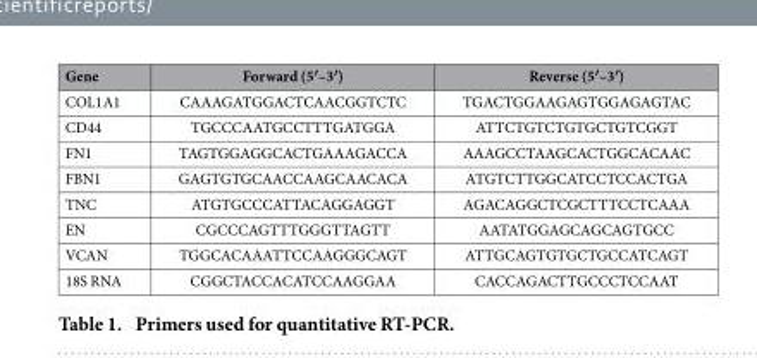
<table><thead><tr><td>Gene</td><td>Forward (5′–3′)</td><td>Reverse (5′–3′)</td></tr></thead><tbody><tr><td>COL1A1</td><td>CAAAGATGGACTCAACGGTCTC</td><td>TGACTGGAAGAGTGGAGAGTAC</td></tr><tr><td>CD44</td><td>TGCCCAATGCCTTTGATGGA</td><td>ATTCTGTCTGTGCTGTCGGT</td></tr><tr><td>FN1</td><td>TAGTGGAGGCACTGAAAGACCA</td><td>AAAGCCTAAGCACTGGCACAAC</td></tr><tr><td>FBN1</td><td>GAGTGTGCAACCAAGCAACACA</td><td>ATGTCTTGGCATCCTCCACTGA</td></tr><tr><td>TNC</td><td>ATGTGCCCATTACAGGAGGT</td><td>AGACAGGCTCGCTTTCCTCAAA</td></tr><tr><td>EN</td><td>CGCCCAGTTTGGGTTAGTT</td><td>AATATGGAGCAGCAGTGCC</td></tr><tr><td>VCAN</td><td>TGGCACAAATTCCAAGGGCAGT</td><td>ATTGCAGTGTGCTGCCATCAGT</td></tr><tr><td>18S RNA</td><td>CGGCTACCACATCCAAGGAA</td><td>CACCAGACTTGCCCTCCAAT</td></tr></tbody></table>